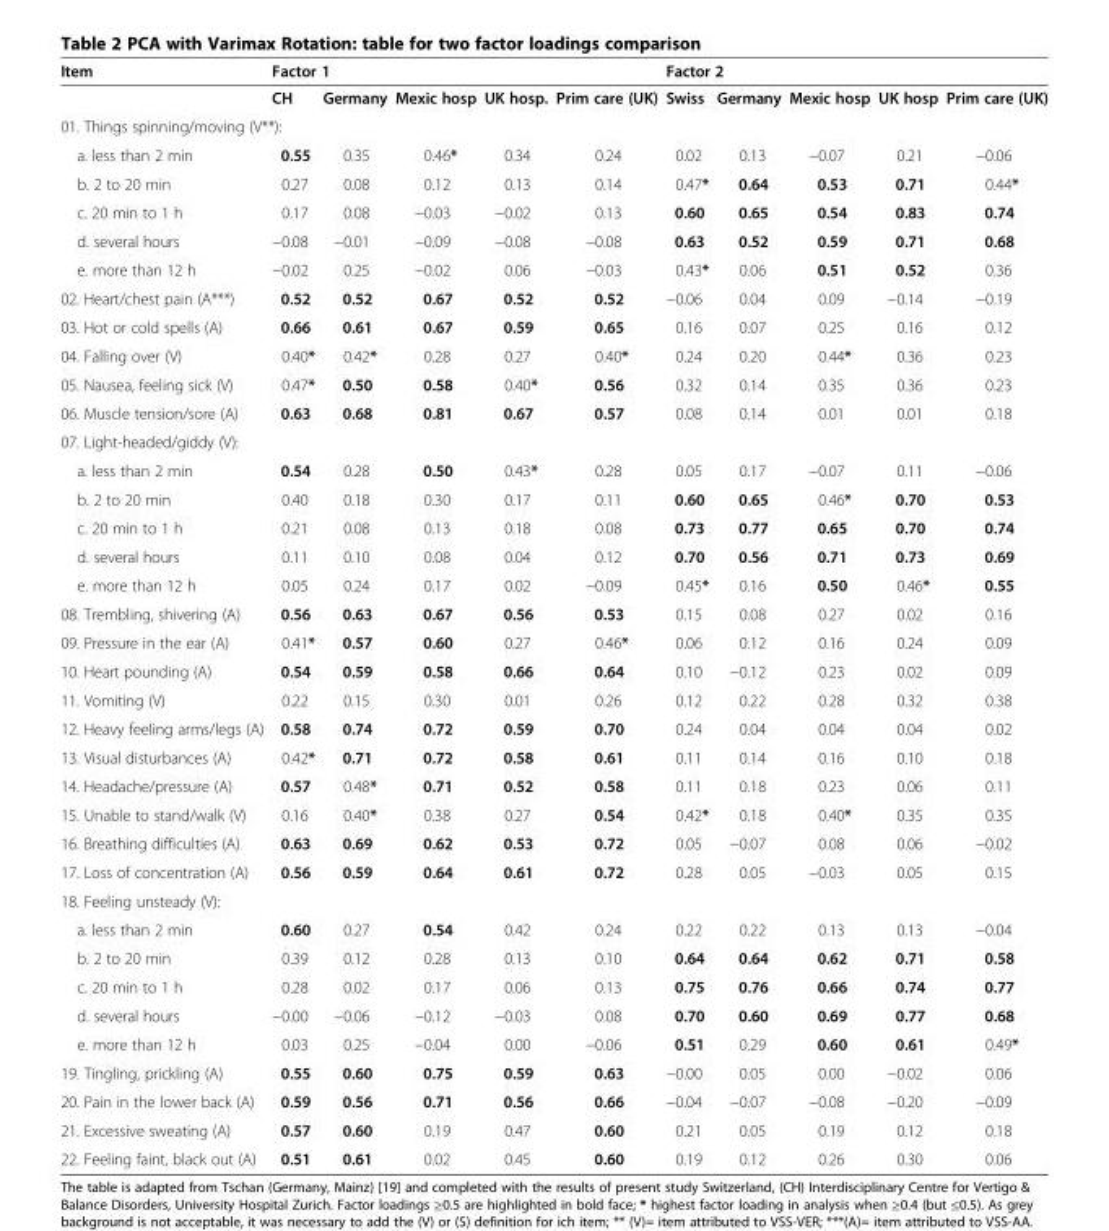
<table><thead><tr><td rowspan="2">Item</td><td colspan="5">Factor 1</td><td colspan="5">Factor 2</td></tr><tr><td>CH</td><td>Germany</td><td>Mexic hosp</td><td>UK hosp.</td><td>Prim care (UK)</td><td>Swiss</td><td>Germany</td><td>Mexic hosp</td><td>UK hosp</td><td>Prim care (UK)</td></tr></thead><tbody><tr><td colspan="11">01. Things spinning/moving (V**):</td></tr><tr><td>a. less than 2 min</td><td>0.55</td><td>0.35</td><td>0.46*</td><td>0.34</td><td>0.24</td><td>0.02</td><td>0.13</td><td>−0.07</td><td>0.21</td><td>−0.06</td></tr><tr><td>b. 2 to 20 min</td><td>0.27</td><td>0.08</td><td>0.12</td><td>0.13</td><td>0.14</td><td>0.47*</td><td>0.64</td><td>0.53</td><td>0.71</td><td>0.44*</td></tr><tr><td>c. 20 min to 1 h</td><td>0.17</td><td>0.08</td><td>−0.03</td><td>−0.02</td><td>0.13</td><td>0.60</td><td>0.65</td><td>0.54</td><td>0.83</td><td>0.74</td></tr><tr><td>d. several hours</td><td>−0.08</td><td>−0.01</td><td>−0.09</td><td>−0.08</td><td>−0.08</td><td>0.63</td><td>0.52</td><td>0.59</td><td>0.71</td><td>0.68</td></tr><tr><td>e. more than 12 h</td><td>−0.02</td><td>0.25</td><td>−0.02</td><td>0.06</td><td>−0.03</td><td>0.43*</td><td>0.06</td><td>0.51</td><td>0.52</td><td>0.36</td></tr><tr><td>02. Heart/chest pain (A***)</td><td>0.52</td><td>0.52</td><td>0.67</td><td>0.52</td><td>0.52</td><td>−0.06</td><td>0.04</td><td>0.09</td><td>−0.14</td><td>−0.19</td></tr><tr><td>03. Hot or cold spells (A)</td><td>0.66</td><td>0.61</td><td>0.67</td><td>0.59</td><td>0.65</td><td>0.16</td><td>0.07</td><td>0.25</td><td>0.16</td><td>0.12</td></tr><tr><td>04. Falling over (V)</td><td>0.40*</td><td>0.42*</td><td>0.28</td><td>0.27</td><td>0.40*</td><td>0.24</td><td>0.20</td><td>0.44*</td><td>0.36</td><td>0.23</td></tr><tr><td>05. Nausea, feeling sick (V)</td><td>0.47*</td><td>0.50</td><td>0.58</td><td>0.40*</td><td>0.56</td><td>0.32</td><td>0.14</td><td>0.35</td><td>0.36</td><td>0.23</td></tr><tr><td>06. Muscle tension/sore (A)</td><td>0.63</td><td>0.68</td><td>0.81</td><td>0.67</td><td>0.57</td><td>0.08</td><td>0.14</td><td>0.01</td><td>0.01</td><td>0.18</td></tr><tr><td colspan="11">07. Light-headed/giddy (V):</td></tr><tr><td>a. less than 2 min</td><td>0.54</td><td>0.28</td><td>0.50</td><td>0.43*</td><td>0.28</td><td>0.05</td><td>0.17</td><td>−0.07</td><td>0.11</td><td>−0.06</td></tr><tr><td>b. 2 to 20 min</td><td>0.40</td><td>0.18</td><td>0.30</td><td>0.17</td><td>0.11</td><td>0.60</td><td>0.65</td><td>0.46*</td><td>0.70</td><td>0.53</td></tr><tr><td>c. 20 min to 1 h</td><td>0.21</td><td>0.08</td><td>0.13</td><td>0.18</td><td>0.08</td><td>0.73</td><td>0.77</td><td>0.65</td><td>0.70</td><td>0.74</td></tr><tr><td>d. several hours</td><td>0.11</td><td>0.10</td><td>0.08</td><td>0.04</td><td>0.12</td><td>0.70</td><td>0.56</td><td>0.71</td><td>0.73</td><td>0.69</td></tr><tr><td>e. more than 12 h</td><td>0.05</td><td>0.24</td><td>0.17</td><td>0.02</td><td>−0.09</td><td>0.45*</td><td>0.16</td><td>0.50</td><td>0.46*</td><td>0.55</td></tr><tr><td>08. Trembling, shivering (A)</td><td>0.56</td><td>0.63</td><td>0.67</td><td>0.56</td><td>0.53</td><td>0.15</td><td>0.08</td><td>0.27</td><td>0.02</td><td>0.16</td></tr><tr><td>09. Pressure in the ear (A)</td><td>0.41*</td><td>0.57</td><td>0.60</td><td>0.27</td><td>0.46*</td><td>0.06</td><td>0.12</td><td>0.16</td><td>0.24</td><td>0.09</td></tr><tr><td>10. Heart pounding (A)</td><td>0.54</td><td>0.59</td><td>0.58</td><td>0.66</td><td>0.64</td><td>0.10</td><td>−0.12</td><td>0.23</td><td>0.02</td><td>0.09</td></tr><tr><td>11. Vomiting (V)</td><td>0.22</td><td>0.15</td><td>0.30</td><td>0.01</td><td>0.26</td><td>0.12</td><td>0.22</td><td>0.28</td><td>0.32</td><td>0.38</td></tr><tr><td>12. Heavy feeling arms/legs (A)</td><td>0.58</td><td>0.74</td><td>0.72</td><td>0.59</td><td>0.70</td><td>0.24</td><td>0.04</td><td>0.04</td><td>0.04</td><td>0.02</td></tr><tr><td>13. Visual disturbances (A)</td><td>0.42*</td><td>0.71</td><td>0.72</td><td>0.58</td><td>0.61</td><td>0.11</td><td>0.14</td><td>0.16</td><td>0.10</td><td>0.18</td></tr><tr><td>14. Headache/pressure (A)</td><td>0.57</td><td>0.48*</td><td>0.71</td><td>0.52</td><td>0.58</td><td>0.11</td><td>0.18</td><td>0.23</td><td>0.06</td><td>0.11</td></tr><tr><td>15. Unable to stand/walk (V)</td><td>0.16</td><td>0.40*</td><td>0.38</td><td>0.27</td><td>0.54</td><td>0.42*</td><td>0.18</td><td>0.40*</td><td>0.35</td><td>0.35</td></tr><tr><td>16. Breathing difficulties (A)</td><td>0.63</td><td>0.69</td><td>0.62</td><td>0.53</td><td>0.72</td><td>0.05</td><td>−0.07</td><td>0.08</td><td>0.06</td><td>−0.02</td></tr><tr><td>17. Loss of concentration (A)</td><td>0.56</td><td>0.59</td><td>0.64</td><td>0.61</td><td>0.72</td><td>0.28</td><td>0.05</td><td>−0.03</td><td>0.05</td><td>0.15</td></tr><tr><td colspan="11">18. Feeling unsteady (V):</td></tr><tr><td>a. less than 2 min</td><td>0.60</td><td>0.27</td><td>0.54</td><td>0.42</td><td>0.24</td><td>0.22</td><td>0.22</td><td>0.13</td><td>0.13</td><td>−0.04</td></tr><tr><td>b. 2 to 20 min</td><td>0.39</td><td>0.12</td><td>0.28</td><td>0.13</td><td>0.10</td><td>0.64</td><td>0.64</td><td>0.62</td><td>0.71</td><td>0.58</td></tr><tr><td>c. 20 min to 1 h</td><td>0.28</td><td>0.02</td><td>0.17</td><td>0.06</td><td>0.13</td><td>0.75</td><td>0.76</td><td>0.66</td><td>0.74</td><td>0.77</td></tr><tr><td>d. several hours</td><td>−0.00</td><td>−0.06</td><td>−0.12</td><td>−0.03</td><td>0.08</td><td>0.70</td><td>0.60</td><td>0.69</td><td>0.77</td><td>0.68</td></tr><tr><td>e. more than 12 h</td><td>0.03</td><td>0.25</td><td>−0.04</td><td>0.00</td><td>−0.06</td><td>0.51</td><td>0.29</td><td>0.60</td><td>0.61</td><td>0.49*</td></tr><tr><td>19. Tingling, prickling (A)</td><td>0.55</td><td>0.60</td><td>0.75</td><td>0.59</td><td>0.63</td><td>−0.00</td><td>0.05</td><td>0.00</td><td>−0.02</td><td>0.06</td></tr><tr><td>20. Pain in the lower back (A)</td><td>0.59</td><td>0.56</td><td>0.71</td><td>0.56</td><td>0.66</td><td>−0.04</td><td>−0.07</td><td>−0.08</td><td>−0.20</td><td>−0.09</td></tr><tr><td>21. Excessive sweating (A)</td><td>0.57</td><td>0.60</td><td>0.19</td><td>0.47</td><td>0.60</td><td>0.21</td><td>0.05</td><td>0.19</td><td>0.12</td><td>0.18</td></tr><tr><td>22. Feeling faint, black out (A)</td><td>0.51</td><td>0.61</td><td>0.02</td><td>0.45</td><td>0.60</td><td>0.19</td><td>0.12</td><td>0.26</td><td>0.30</td><td>0.06</td></tr></tbody></table>